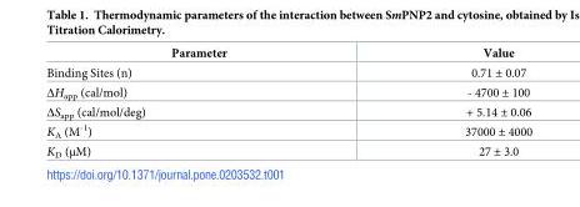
<table><thead><tr><td>Parameter</td><td>Value</td></tr></thead><tbody><tr><td>Binding Sites (n)</td><td>0.71 ± 0.07</td></tr><tr><td>ΔH<sub>app</sub> (cal/mol)</td><td>- 4700 ± 100</td></tr><tr><td>ΔS<sub>app</sub> (cal/mol/deg)</td><td>+ 5.14 ± 0.06</td></tr><tr><td>K<sub>A</sub> (M<sup>-1</sup>)</td><td>37000 ± 4000</td></tr><tr><td>K<sub>D</sub> (μM)</td><td>27 ± 3.0</td></tr></tbody></table>